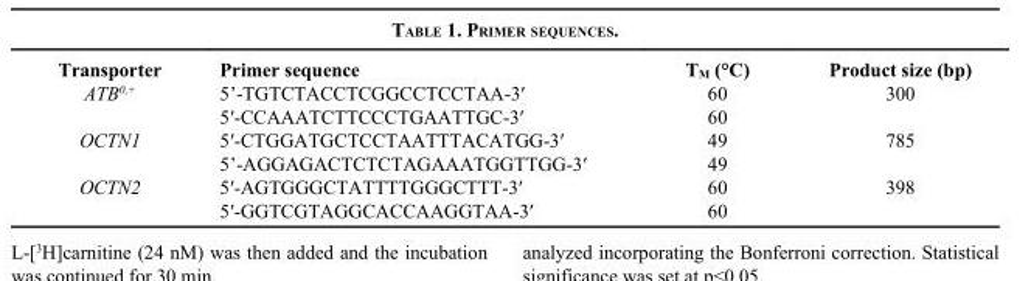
<table><thead><tr><td>Transporter</td><td>Primer sequence</td><td>T<sub>M</sub> (°C)</td><td>Product size (bp)</td></tr></thead><tbody><tr><td rowspan="2">ATB<sup>0,+</sup></td><td>5’-TGTCTACCTCGGCCTCCTAA-3′</td><td>60</td><td>300</td></tr><tr><td>5′-CCAAATCTTCCCTGAATTGC-3′</td><td>60</td><td></td></tr><tr><td rowspan="2">OCTN1</td><td>5′-CTGGATGCTCCTAATTTACATGG-3′</td><td>49</td><td>785</td></tr><tr><td>5’-AGGAGACTCTCTAGAAATGGTTGG-3′</td><td>49</td><td></td></tr><tr><td rowspan="2">OCTN2</td><td>5′-AGTGGGCTATTTTGGGCTTT-3′</td><td>60</td><td>398</td></tr><tr><td>5′-GGTCGTAGGCACCAAGGTAA-3′</td><td>60</td><td></td></tr></tbody></table>